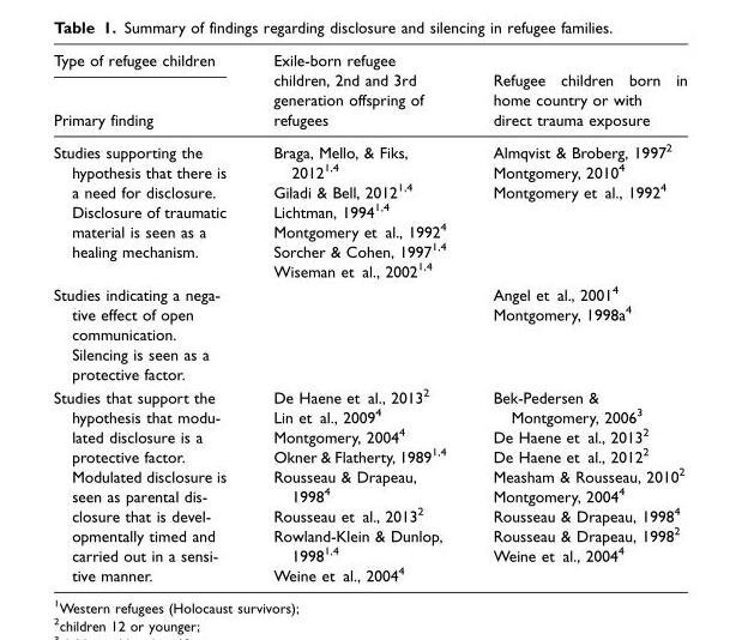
<table><thead><tr><td rowspan="2">Type of refugee children Primary finding</td><td rowspan="2">Exile-born refugee children, 2nd and 3rd generation offspring of refugees</td><td rowspan="2">Refugee children born in home country or with direct trauma exposure</td></tr><tr></tr></thead><tbody><tr><td>Studies supporting the hypothesis that there is a need for disclosure. Disclosure of traumatic material is seen as a healing mechanism.</td><td>Braga, Mello, &amp; Fiks, 2012<sup>1,4</sup> Giladi &amp; Bell, 2012<sup>1,4</sup> Lichtman, 1994<sup>1,4</sup> Montgomery et al., 1992<sup>4</sup> Sorcher &amp; Cohen, 1997<sup>1,4</sup> Wiseman et al., 2002<sup>1,4</sup></td><td>Almqvist &amp; Broberg, 1997<sup>2</sup> Montgomery, 2010<sup>4</sup> Montgomery et al., 1992<sup>4</sup></td></tr><tr><td>Studies indicating a nega- tive effect of open communication. Silencing is seen as a protective factor.</td><td></td><td>Angel et al., 2001<sup>4</sup> Montgomery, 1998a<sup>4</sup></td></tr><tr><td>Studies that support the hypothesis that modu- lated disclosure is a protective factor. Modulated disclosure is seen as parental dis- closure that is devel- opmentally timed and carried out in a sensi- tive manner.</td><td>De Haene et al., 2013<sup>2</sup> Lin et al., 2009<sup>4</sup> Montgomery, 2004<sup>4</sup> Okner &amp; Flatherty, 1989<sup>1,4</sup> Rousseau &amp; Drapeau, 1998<sup>4</sup> Rousseau et al., 2013<sup>2</sup> Rowland-Klein &amp; Dunlop, 1998<sup>1,4</sup> Weine et al., 2004<sup>4</sup></td><td>Bek-Pedersen &amp; Montgomery, 2006<sup>3</sup> De Haene et al., 2013<sup>2</sup> De Haene et al., 2012<sup>2</sup> Measham &amp; Rousseau, 2010<sup>2</sup> Montgomery, 2004<sup>4</sup> Rousseau &amp; Drapeau, 1998<sup>4</sup> Rousseau &amp; Drapeau, 1998<sup>2</sup> Weine et al., 2004<sup>4</sup></td></tr></tbody></table>